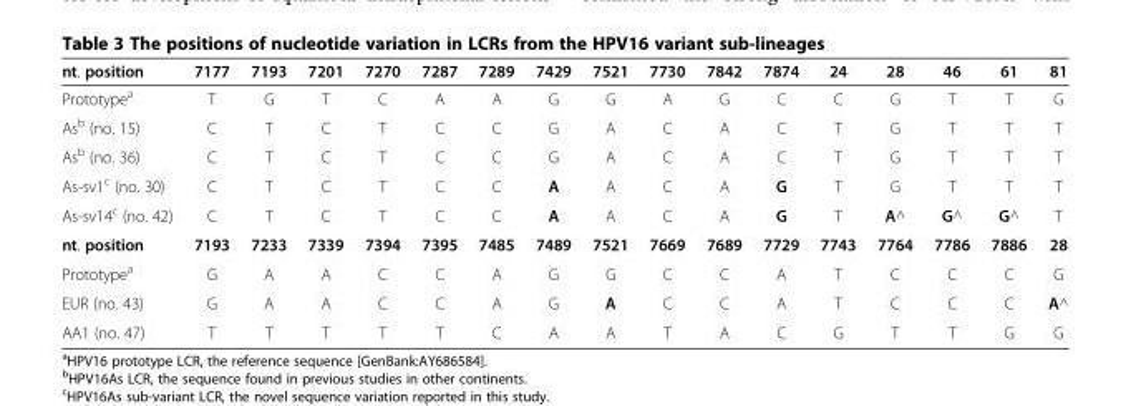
<table><thead><tr><td>nt. position</td><td>7177</td><td>7193</td><td>7201</td><td>7270</td><td>7287</td><td>7289</td><td>7429</td><td>7521</td><td>7730</td><td>7842</td><td>7874</td><td>24</td><td>28</td><td>46</td><td>61</td><td>81</td></tr></thead><tbody><tr><td>Prototype<sup>a</sup></td><td>T</td><td>G</td><td>T</td><td>C</td><td>A</td><td>A</td><td>G</td><td>G</td><td>A</td><td>G</td><td>C</td><td>C</td><td>G</td><td>T</td><td>T</td><td>G</td></tr><tr><td>As<sup>b</sup> (no. 15)</td><td>C</td><td>T</td><td>C</td><td>T</td><td>C</td><td>C</td><td>G</td><td>A</td><td>C</td><td>A</td><td>C</td><td>T</td><td>G</td><td>T</td><td>T</td><td>T</td></tr><tr><td>As<sup>b</sup> (no. 36)</td><td>C</td><td>T</td><td>C</td><td>T</td><td>C</td><td>C</td><td>G</td><td>A</td><td>C</td><td>A</td><td>C</td><td>T</td><td>G</td><td>T</td><td>T</td><td>T</td></tr><tr><td>As-sv1<sup>c</sup> (no. 30)</td><td>C</td><td>T</td><td>C</td><td>T</td><td>C</td><td>C</td><td>A</td><td>A</td><td>C</td><td>A</td><td>G</td><td>T</td><td>G</td><td>T</td><td>T</td><td>T</td></tr><tr><td>As-sv14<sup>c</sup> (no. 42)</td><td>C</td><td>T</td><td>C</td><td>T</td><td>C</td><td>C</td><td>A</td><td>A</td><td>C</td><td>A</td><td>G</td><td>T</td><td>A^</td><td>G^</td><td>G^</td><td>T</td></tr><tr><td>nt. position</td><td>7193</td><td>7233</td><td>7339</td><td>7394</td><td>7395</td><td>7485</td><td>7489</td><td>7521</td><td>7669</td><td>7689</td><td>7729</td><td>7743</td><td>7764</td><td>7786</td><td>7886</td><td>28</td></tr><tr><td>Prototype<sup>a</sup></td><td>G</td><td>A</td><td>A</td><td>C</td><td>C</td><td>A</td><td>G</td><td>G</td><td>C</td><td>C</td><td>A</td><td>T</td><td>C</td><td>C</td><td>C</td><td>G</td></tr><tr><td>EUR (no. 43)</td><td>G</td><td>A</td><td>A</td><td>C</td><td>C</td><td>A</td><td>G</td><td>A</td><td>C</td><td>C</td><td>A</td><td>T</td><td>C</td><td>C</td><td>C</td><td>A^</td></tr><tr><td>AA1 (no. 47)</td><td>T</td><td>T</td><td>T</td><td>T</td><td>T</td><td>C</td><td>A</td><td>A</td><td>T</td><td>A</td><td>C</td><td>G</td><td>T</td><td>T</td><td>G</td><td>G</td></tr></tbody></table>